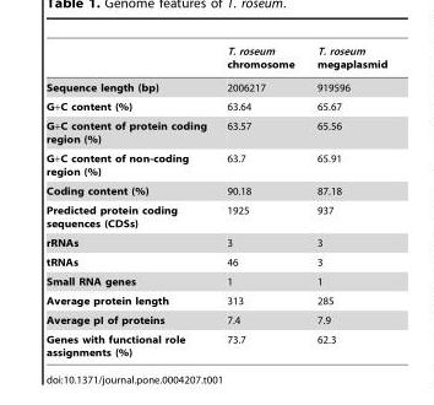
<table><thead><tr><td></td><td>T. roseum chromosome</td><td>T. roseum megaplasmid</td></tr></thead><tbody><tr><td>Sequence length (bp)</td><td>2006217</td><td>919596</td></tr><tr><td>G+C content (%)</td><td>63.64</td><td>65.67</td></tr><tr><td>G+C content of protein coding region (%)</td><td>63.57</td><td>65.56</td></tr><tr><td>G+C content of non-coding region (%)</td><td>63.7</td><td>65.91</td></tr><tr><td>Coding content (%)</td><td>90.18</td><td>87.18</td></tr><tr><td>Predicted protein coding sequences (CDSs)</td><td>1925</td><td>937</td></tr><tr><td>rRNAs</td><td>3</td><td>3</td></tr><tr><td>tRNAs</td><td>46</td><td>3</td></tr><tr><td>Small RNA genes</td><td>1</td><td>1</td></tr><tr><td>Average protein length</td><td>313</td><td>285</td></tr><tr><td>Average pI of proteins</td><td>7.4</td><td>7.9</td></tr><tr><td>Genes with functional role assignments (%)</td><td>73.7</td><td>62.3</td></tr></tbody></table>